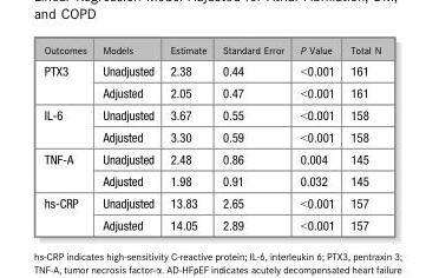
<table><thead><tr><td>Outcomes</td><td>Models</td><td>Estimate</td><td>Standard Error</td><td>P Value</td><td>Total N</td></tr></thead><tbody><tr><td rowspan="2">PTX3</td><td>Unadjusted</td><td>2.38</td><td>0.44</td><td>&lt;0.001</td><td>161</td></tr><tr><td>Adjusted</td><td>2.05</td><td>0.47</td><td>&lt;0.001</td><td>161</td></tr><tr><td rowspan="2">IL-6</td><td>Unadjusted</td><td>3.67</td><td>0.55</td><td>&lt;0.001</td><td>158</td></tr><tr><td>Adjusted</td><td>3.30</td><td>0.59</td><td>&lt;0.001</td><td>158</td></tr><tr><td rowspan="2">TNF-A</td><td>Unadjusted</td><td>2.48</td><td>0.86</td><td>0.004</td><td>145</td></tr><tr><td>Adjusted</td><td>1.98</td><td>0.91</td><td>0.032</td><td>145</td></tr><tr><td rowspan="2">hs-CRP</td><td>Unadjusted</td><td>13.83</td><td>2.65</td><td>&lt;0.001</td><td>157</td></tr><tr><td>Adjusted</td><td>14.05</td><td>2.89</td><td>&lt;0.001</td><td>157</td></tr></tbody></table>